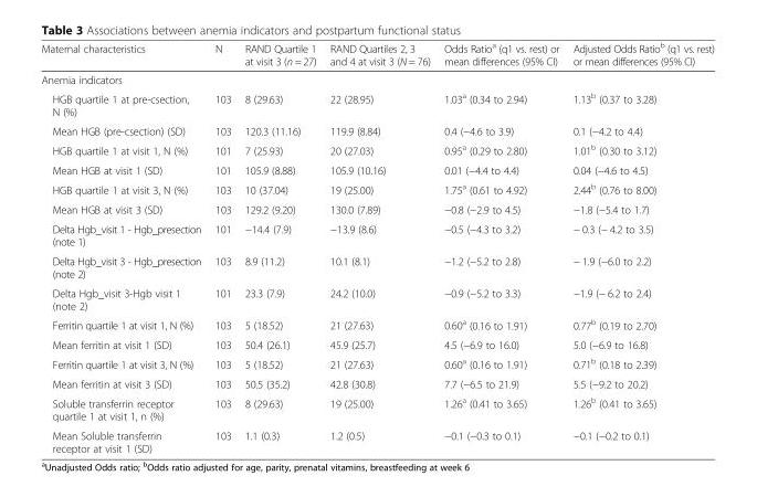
<table><thead><tr><td>Maternal characteristics</td><td>N</td><td>RAND Quartile 1 at visit 3 (n = 27)</td><td>RAND Quartiles 2, 3 and 4 at visit 3 (N = 76)</td><td>Odds Ratio<sup>a</sup> (q1 vs. rest) or mean differences (95% CI)</td><td>Adjusted Odds Ratio<sup>b</sup> (q1 vs. rest) or mean differences (95% CI)</td></tr></thead><tbody><tr><td colspan="6">Anemia indicators</td></tr><tr><td>HGB quartile 1 at pre-csection, N (%)</td><td>103</td><td>8 (29.63)</td><td>22 (28.95)</td><td>1.03<sup>a</sup> (0.34 to 2.94)</td><td>1.13<sup>b</sup> (0.37 to 3.28)</td></tr><tr><td>Mean HGB (pre-csection) (SD)</td><td>103</td><td>120.3 (11.16)</td><td>119.9 (8.84)</td><td>0.4 (−4.6 to 3.9)</td><td>0.1 (−4.2 to 4.4)</td></tr><tr><td>HGB quartile 1 at visit 1, N (%)</td><td>101</td><td>7 (25.93)</td><td>20 (27.03)</td><td>0.95<sup>a</sup> (0.29 to 2.80)</td><td>1.01<sup>b</sup> (0.30 to 3.12)</td></tr><tr><td>Mean HGB at visit 1 (SD)</td><td>101</td><td>105.9 (8.88)</td><td>105.9 (10.16)</td><td>0.01 (−4.4 to 4.4)</td><td>0.04 (−4.6 to 4.5)</td></tr><tr><td>HGB quartile 1 at visit 3, N (%)</td><td>103</td><td>10 (37.04)</td><td>19 (25.00)</td><td>1.75<sup>a</sup> (0.61 to 4.92)</td><td>2.44<sup>b</sup> (0.76 to 8.00)</td></tr><tr><td>Mean HGB at visit 3 (SD)</td><td>103</td><td>129.2 (9.20)</td><td>130.0 (7.89)</td><td>−0.8 (−2.9 to 4.5)</td><td>−1.8 (−5.4 to 1.7)</td></tr><tr><td>Delta Hgb_visit 1 - Hgb_presection (note 1)</td><td>101</td><td>−14.4 (7.9)</td><td>−13.9 (8.6)</td><td>−0.5 (−4.3 to 3.2)</td><td>− 0.3 (− 4.2 to 3.5)</td></tr><tr><td>Delta Hgb_visit 3 - Hgb_presection (note 2)</td><td>103</td><td>8.9 (11.2)</td><td>10.1 (8.1)</td><td>−1.2 (−5.2 to 2.8)</td><td>− 1.9 (−6.0 to 2.2)</td></tr><tr><td>Delta Hgb_visit 3-Hgb visit 1 (note 2)</td><td>101</td><td>23.3 (7.9)</td><td>24.2 (10.0)</td><td>−0.9 (−5.2 to 3.3)</td><td>−1.9 (− 6.2 to 2.4)</td></tr><tr><td>Ferritin quartile 1 at visit 1, N (%)</td><td>103</td><td>5 (18.52)</td><td>21 (27.63)</td><td>0.60<sup>a</sup> (0.16 to 1.91)</td><td>0.77<sup>b</sup> (0.19 to 2.70)</td></tr><tr><td>Mean ferritin at visit 1 (SD)</td><td>103</td><td>50.4 (26.1)</td><td>45.9 (25.7)</td><td>4.5 (−6.9 to 16.0)</td><td>5.0 (−6.9 to 16.8)</td></tr><tr><td>Ferritin quartile 1 at visit 3, N (%)</td><td>103</td><td>5 (18.52)</td><td>21 (27.63)</td><td>0.60<sup>a</sup> (0.16 to 1.91)</td><td>0.71<sup>b</sup> (0.18 to 2.39)</td></tr><tr><td>Mean ferritin at visit 3 (SD)</td><td>103</td><td>50.5 (35.2)</td><td>42.8 (30.8)</td><td>7.7 (−6.5 to 21.9)</td><td>5.5 (−9.2 to 20.2)</td></tr><tr><td>Soluble transferrin receptor quartile 1 at visit 1, n (%)</td><td>103</td><td>8 (29.63)</td><td>19 (25.00)</td><td>1.26<sup>a</sup> (0.41 to 3.65)</td><td>1.26<sup>b</sup> (0.41 to 3.65)</td></tr><tr><td>Mean Soluble transferrin receptor at visit 1 (SD)</td><td>103</td><td>1.1 (0.3)</td><td>1.2 (0.5)</td><td>−0.1 (−0.3 to 0.1)</td><td>−0.1 (−0.2 to 0.1)</td></tr></tbody></table>